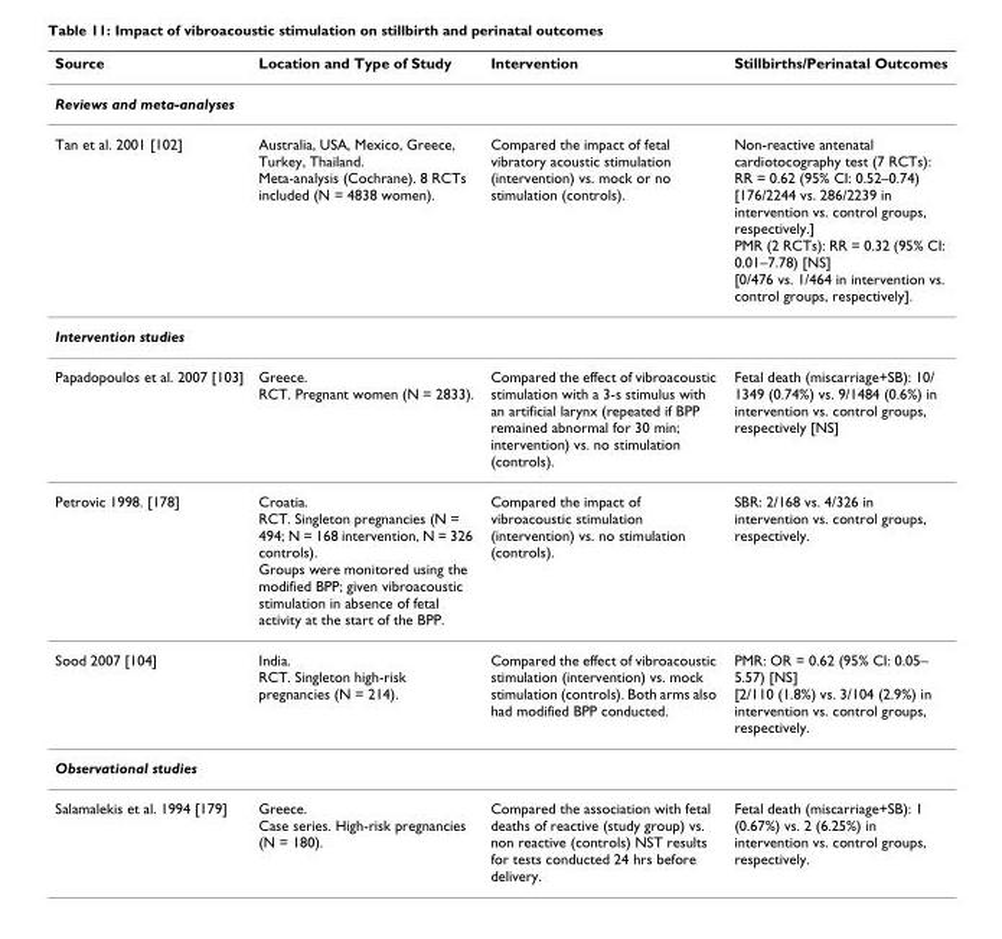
<table><thead><tr><td>Source</td><td>Location and Type of Study</td><td>Intervention</td><td>Stillbirths/Perinatal Outcomes</td></tr></thead><tbody><tr><td colspan="4">Reviews and meta-analyses</td></tr><tr><td>Tan et al. 2001 [102]</td><td>Australia, USA, Mexico, Greece, Turkey, Thailand. Meta-analysis (Cochrane). 8 RCTs included (N = 4838 women).</td><td>Compared the impact of fetal vibratory acoustic stimulation (intervention) vs. mock or no stimulation (controls).</td><td>Non-reactive antenatal cardiotocography test (7 RCTs): RR = 0.62 (95% CI: 0.52–0.74) [176/2244 vs. 286/2239 in intervention vs. control groups, respectively.] PMR (2 RCTs): RR = 0.32 (95% CI: 0.01–7.78) [NS] [0/476 vs. 1/464 in intervention vs. control groups, respectively].</td></tr><tr><td colspan="4">Intervention studies</td></tr><tr><td>Papadopoulos et al. 2007 [103]</td><td>Greece. RCT. Pregnant women (N = 2833).</td><td>Compared the effect of vibroacoustic stimulation with a 3-s stimulus with an artificial larynx (repeated if BPP remained abnormal for 30 min; intervention) vs. no stimulation (controls).</td><td>Fetal death (miscarriage+SB): 10/ 1349 (0.74%) vs. 9/1484 (0.6%) in intervention vs. control groups, respectively [NS]</td></tr><tr><td>Petrovic 1998. [178]</td><td>Croatia. RCT. Singleton pregnancies (N = 494; N = 168 intervention, N = 326 controls). Groups were monitored using the modified BPP; given vibroacoustic stimulation in absence of fetal activity at the start of the BPP.</td><td>Compared the impact of vibroacoustic stimulation (intervention) vs. no stimulation (controls).</td><td>SBR: 2/168 vs. 4/326 in intervention vs. control groups, respectively.</td></tr><tr><td>Sood 2007 [104]</td><td>India. RCT. Singleton high-risk pregnancies (N = 214).</td><td>Compared the effect of vibroacoustic stimulation (intervention) vs. mock stimulation (controls). Both arms also had modified BPP conducted.</td><td>PMR: OR = 0.62 (95% CI: 0.05– 5.57) [NS] [2/110 (1.8%) vs. 3/104 (2.9%) in intervention vs. control groups, respectively.</td></tr><tr><td colspan="4">Observational studies</td></tr><tr><td>Salamalekis et al. 1994 [179]</td><td>Greece. Case series. High-risk pregnancies (N = 180).</td><td>Compared the association with fetal deaths of reactive (study group) vs. non reactive (controls) NST results for tests conducted 24 hrs before delivery.</td><td>Fetal death (miscarriage+SB): 1 (0.67%) vs. 2 (6.25%) in intervention vs. control groups, respectively.</td></tr></tbody></table>